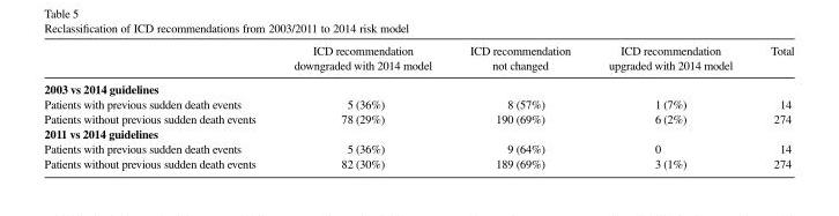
<table><thead><tr><td></td><td>ICD recommendation downgraded with 2014 model</td><td>ICD recommendation not changed</td><td>ICD recommendation upgraded with 2014 model</td><td>Total</td></tr></thead><tbody><tr><td colspan="5">2003 vs 2014 guidelines</td></tr><tr><td>Patients with previous sudden death events</td><td>5 (36%)</td><td>8 (57%)</td><td>1 (7%)</td><td>14</td></tr><tr><td>Patients without previous sudden death events</td><td>78 (29%)</td><td>190 (69%)</td><td>6 (2%)</td><td>274</td></tr><tr><td colspan="5">2011 vs 2014 guidelines</td></tr><tr><td>Patients with previous sudden death events</td><td>5 (36%)</td><td>9 (64%)</td><td>0</td><td>14</td></tr><tr><td>Patients without previous sudden death events</td><td>82 (30%)</td><td>189 (69%)</td><td>3 (1%)</td><td>274</td></tr></tbody></table>